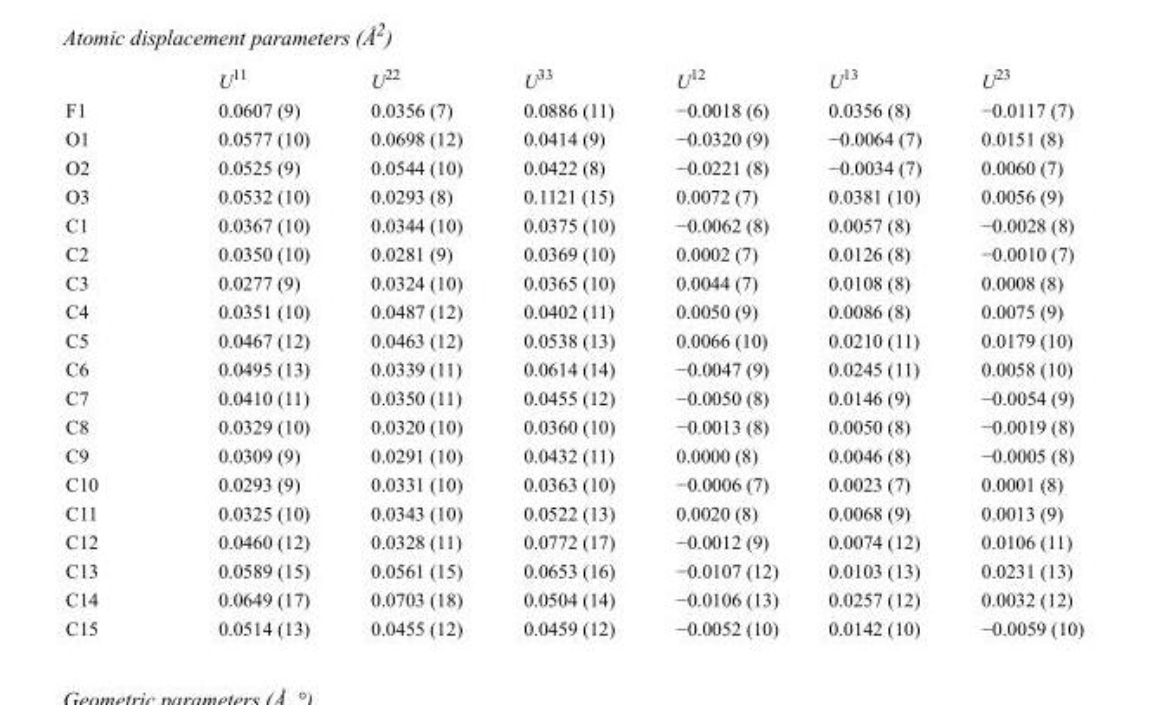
<table><thead><tr><td></td><td>U<sup>11</sup></td><td>U<sup>22</sup></td><td>U<sup>33</sup></td><td>U<sup>12</sup></td><td>U<sup>13</sup></td><td>U<sup>23</sup></td></tr></thead><tbody><tr><td>F1</td><td>0.0607 (9)</td><td>0.0356 (7)</td><td>0.0886 (11)</td><td>−0.0018 (6)</td><td>0.0356 (8)</td><td>−0.0117 (7)</td></tr><tr><td>O1</td><td>0.0577 (10)</td><td>0.0698 (12)</td><td>0.0414 (9)</td><td>−0.0320 (9)</td><td>−0.0064 (7)</td><td>0.0151 (8)</td></tr><tr><td>O2</td><td>0.0525 (9)</td><td>0.0544 (10)</td><td>0.0422 (8)</td><td>−0.0221 (8)</td><td>−0.0034 (7)</td><td>0.0060 (7)</td></tr><tr><td>O3</td><td>0.0532 (10)</td><td>0.0293 (8)</td><td>0.1121 (15)</td><td>0.0072 (7)</td><td>0.0381 (10)</td><td>0.0056 (9)</td></tr><tr><td>C1</td><td>0.0367 (10)</td><td>0.0344 (10)</td><td>0.0375 (10)</td><td>−0.0062 (8)</td><td>0.0057 (8)</td><td>−0.0028 (8)</td></tr><tr><td>C2</td><td>0.0350 (10)</td><td>0.0281 (9)</td><td>0.0369 (10)</td><td>0.0002 (7)</td><td>0.0126 (8)</td><td>−0.0010 (7)</td></tr><tr><td>C3</td><td>0.0277 (9)</td><td>0.0324 (10)</td><td>0.0365 (10)</td><td>0.0044 (7)</td><td>0.0108 (8)</td><td>0.0008 (8)</td></tr><tr><td>C4</td><td>0.0351 (10)</td><td>0.0487 (12)</td><td>0.0402 (11)</td><td>0.0050 (9)</td><td>0.0086 (8)</td><td>0.0075 (9)</td></tr><tr><td>C5</td><td>0.0467 (12)</td><td>0.0463 (12)</td><td>0.0538 (13)</td><td>0.0066 (10)</td><td>0.0210 (11)</td><td>0.0179 (10)</td></tr><tr><td>C6</td><td>0.0495 (13)</td><td>0.0339 (11)</td><td>0.0614 (14)</td><td>−0.0047 (9)</td><td>0.0245 (11)</td><td>0.0058 (10)</td></tr><tr><td>C7</td><td>0.0410 (11)</td><td>0.0350 (11)</td><td>0.0455 (12)</td><td>−0.0050 (8)</td><td>0.0146 (9)</td><td>−0.0054 (9)</td></tr><tr><td>C8</td><td>0.0329 (10)</td><td>0.0320 (10)</td><td>0.0360 (10)</td><td>−0.0013 (8)</td><td>0.0050 (8)</td><td>−0.0019 (8)</td></tr><tr><td>C9</td><td>0.0309 (9)</td><td>0.0291 (10)</td><td>0.0432 (11)</td><td>0.0000 (8)</td><td>0.0046 (8)</td><td>−0.0005 (8)</td></tr><tr><td>C10</td><td>0.0293 (9)</td><td>0.0331 (10)</td><td>0.0363 (10)</td><td>−0.0006 (7)</td><td>0.0023 (7)</td><td>0.0001 (8)</td></tr><tr><td>C11</td><td>0.0325 (10)</td><td>0.0343 (10)</td><td>0.0522 (13)</td><td>0.0020 (8)</td><td>0.0068 (9)</td><td>0.0013 (9)</td></tr><tr><td>C12</td><td>0.0460 (12)</td><td>0.0328 (11)</td><td>0.0772 (17)</td><td>−0.0012 (9)</td><td>0.0074 (12)</td><td>0.0106 (11)</td></tr><tr><td>C13</td><td>0.0589 (15)</td><td>0.0561 (15)</td><td>0.0653 (16)</td><td>−0.0107 (12)</td><td>0.0103 (13)</td><td>0.0231 (13)</td></tr><tr><td>C14</td><td>0.0649 (17)</td><td>0.0703 (18)</td><td>0.0504 (14)</td><td>−0.0106 (13)</td><td>0.0257 (12)</td><td>0.0032 (12)</td></tr><tr><td>C15</td><td>0.0514 (13)</td><td>0.0455 (12)</td><td>0.0459 (12)</td><td>−0.0052 (10)</td><td>0.0142 (10)</td><td>−0.0059 (10)</td></tr></tbody></table>